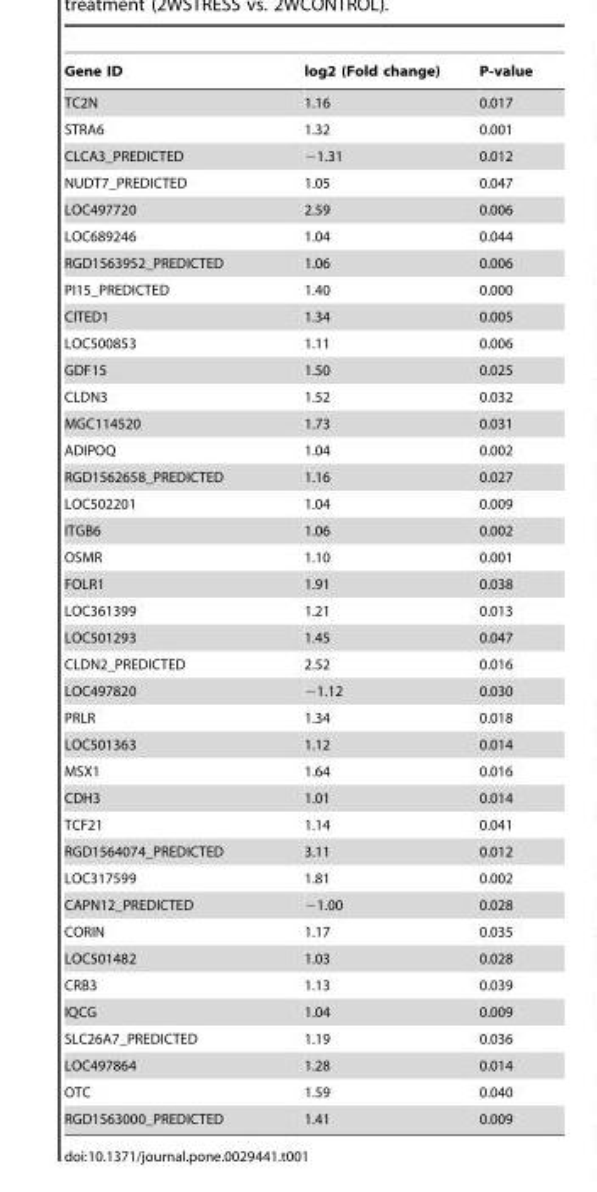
<table><thead><tr><td>Gene ID</td><td>log2 (Fold change)</td><td>P-value</td></tr></thead><tbody><tr><td>TC2N</td><td>1.16</td><td>0.017</td></tr><tr><td>STRA6</td><td>1.32</td><td>0.001</td></tr><tr><td>CLCA3_PREDICTED</td><td>−1.31</td><td>0.012</td></tr><tr><td>NUDT7_PREDICTED</td><td>1.05</td><td>0.047</td></tr><tr><td>LOC497720</td><td>2.59</td><td>0.006</td></tr><tr><td>LOC689246</td><td>1.04</td><td>0.044</td></tr><tr><td>RGD1563952_PREDICTED</td><td>1.06</td><td>0.006</td></tr><tr><td>PI15_PREDICTED</td><td>1.40</td><td>0.000</td></tr><tr><td>CITED1</td><td>1.34</td><td>0.005</td></tr><tr><td>LOC500853</td><td>1.11</td><td>0.006</td></tr><tr><td>GDF15</td><td>1.50</td><td>0.025</td></tr><tr><td>CLDN3</td><td>1.52</td><td>0.032</td></tr><tr><td>MGC114520</td><td>1.73</td><td>0.031</td></tr><tr><td>ADIPOQ</td><td>1.04</td><td>0.002</td></tr><tr><td>RGD1562658_PREDICTED</td><td>1.16</td><td>0.027</td></tr><tr><td>LOC502201</td><td>1.04</td><td>0.009</td></tr><tr><td>ITGB6</td><td>1.06</td><td>0.002</td></tr><tr><td>OSMR</td><td>1.10</td><td>0.001</td></tr><tr><td>FOLR1</td><td>1.91</td><td>0.038</td></tr><tr><td>LOC361399</td><td>1.21</td><td>0.013</td></tr><tr><td>LOC501293</td><td>1.45</td><td>0.047</td></tr><tr><td>CLDN2_PREDICTED</td><td>2.52</td><td>0.016</td></tr><tr><td>LOC497820</td><td>−1.12</td><td>0.030</td></tr><tr><td>PRLR</td><td>1.34</td><td>0.018</td></tr><tr><td>LOC501363</td><td>1.12</td><td>0.014</td></tr><tr><td>MSX1</td><td>1.64</td><td>0.016</td></tr><tr><td>CDH3</td><td>1.01</td><td>0.014</td></tr><tr><td>TCF21</td><td>1.14</td><td>0.041</td></tr><tr><td>RGD1564074_PREDICTED</td><td>3.11</td><td>0.012</td></tr><tr><td>LOC317599</td><td>1.81</td><td>0.002</td></tr><tr><td>CAPN12_PREDICTED</td><td>−1.00</td><td>0.028</td></tr><tr><td>CORIN</td><td>1.17</td><td>0.035</td></tr><tr><td>LOC501482</td><td>1.03</td><td>0.028</td></tr><tr><td>CRB3</td><td>1.13</td><td>0.039</td></tr><tr><td>IQCG</td><td>1.04</td><td>0.009</td></tr><tr><td>SLC26A7_PREDICTED</td><td>1.19</td><td>0.036</td></tr><tr><td>LOC497864</td><td>1.28</td><td>0.014</td></tr><tr><td>OTC</td><td>1.59</td><td>0.040</td></tr><tr><td>RGD1563000_PREDICTED</td><td>1.41</td><td>0.009</td></tr></tbody></table>